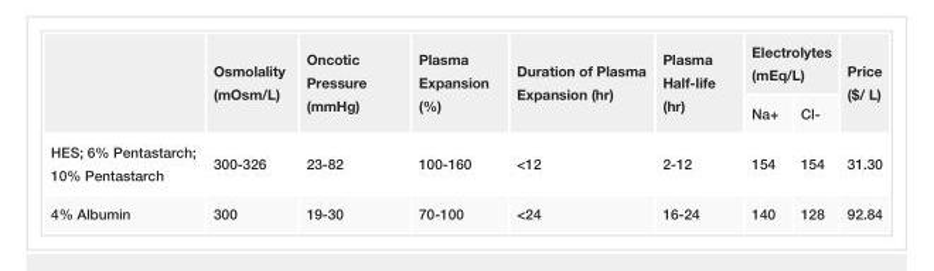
<table><thead><tr><td rowspan="2"></td><td rowspan="2">Osmolality (mOsm/L)</td><td rowspan="2">Oncotic Pressure (mmHg)</td><td rowspan="2">Plasma Expansion (%)</td><td rowspan="2">Duration of Plasma Expansion (hr)</td><td rowspan="2">Plasma Half-life (hr)</td><td colspan="2">Electrolytes (mEq/L)</td><td rowspan="2">Price ($/ L)</td></tr><tr><td>Na+</td><td>Cl-</td></tr></thead><tbody><tr><td>HES; 6% Pentastarch; 10% Pentastarch</td><td>300-326</td><td>23-82</td><td>100-160</td><td>&lt;12</td><td>2-12</td><td>154</td><td>154</td><td>31.30</td></tr><tr><td>4% Albumin</td><td>300</td><td>19-30</td><td>70-100</td><td>&lt;24</td><td>16-24</td><td>140</td><td>128</td><td>92.84</td></tr></tbody></table>